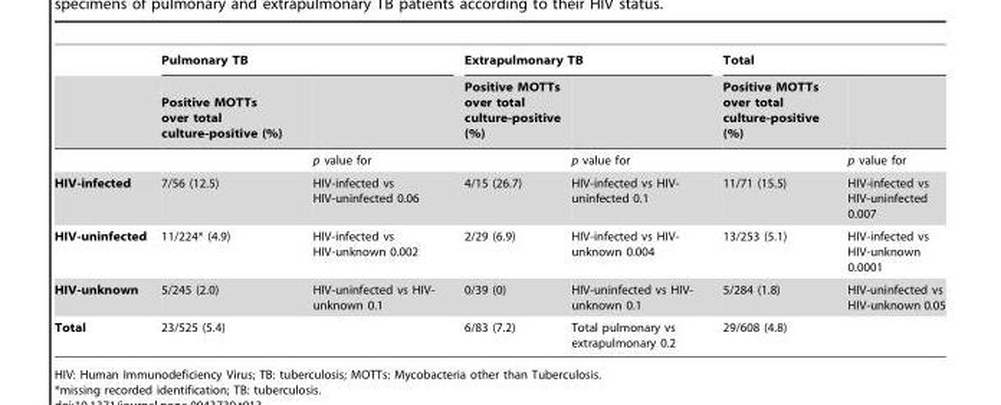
<table><thead><tr><td rowspan="2"></td><td colspan="2">Pulmonary TB</td><td colspan="2">Extrapulmonary TB</td><td colspan="2">Total</td></tr><tr><td>Positive MOTTs over total culture-positive (%)</td><td></td><td>Positive MOTTs over total culture-positive (%)</td><td></td><td>Positive MOTTs over total culture-positive (%)</td><td></td></tr></thead><tbody><tr><td></td><td></td><td>p value for</td><td></td><td>p value for</td><td></td><td>p value for</td></tr><tr><td>HIV-infected</td><td>7/56 (12.5)</td><td>HIV-infected vs HIV-uninfected 0.06</td><td>4/15 (26.7)</td><td>HIV-infected vs HIV- uninfected 0.1</td><td>11/71 (15.5)</td><td>HIV-infected vs HIV-uninfected 0.007</td></tr><tr><td>HIV-uninfected</td><td>11/224* (4.9)</td><td>HIV-infected vs HIV-unknown 0.002</td><td>2/29 (6.9)</td><td>HIV-infected vs HIV- unknown 0.004</td><td>13/253 (5.1)</td><td>HIV-infected vs HIV-unknown 0.0001</td></tr><tr><td>HIV-unknown</td><td>5/245 (2.0)</td><td>HIV-uninfected vs HIV- unknown 0.1</td><td>0/39 (0)</td><td>HIV-uninfected vs HIV- unknown 0.1</td><td>5/284 (1.8)</td><td>HIV-uninfected vs HIV-unknown 0.05</td></tr><tr><td>Total</td><td>23/525 (5.4)</td><td></td><td>6/83 (7.2)</td><td>Total pulmonary vs extrapulmonary 0.2</td><td>29/608 (4.8)</td><td></td></tr></tbody></table>